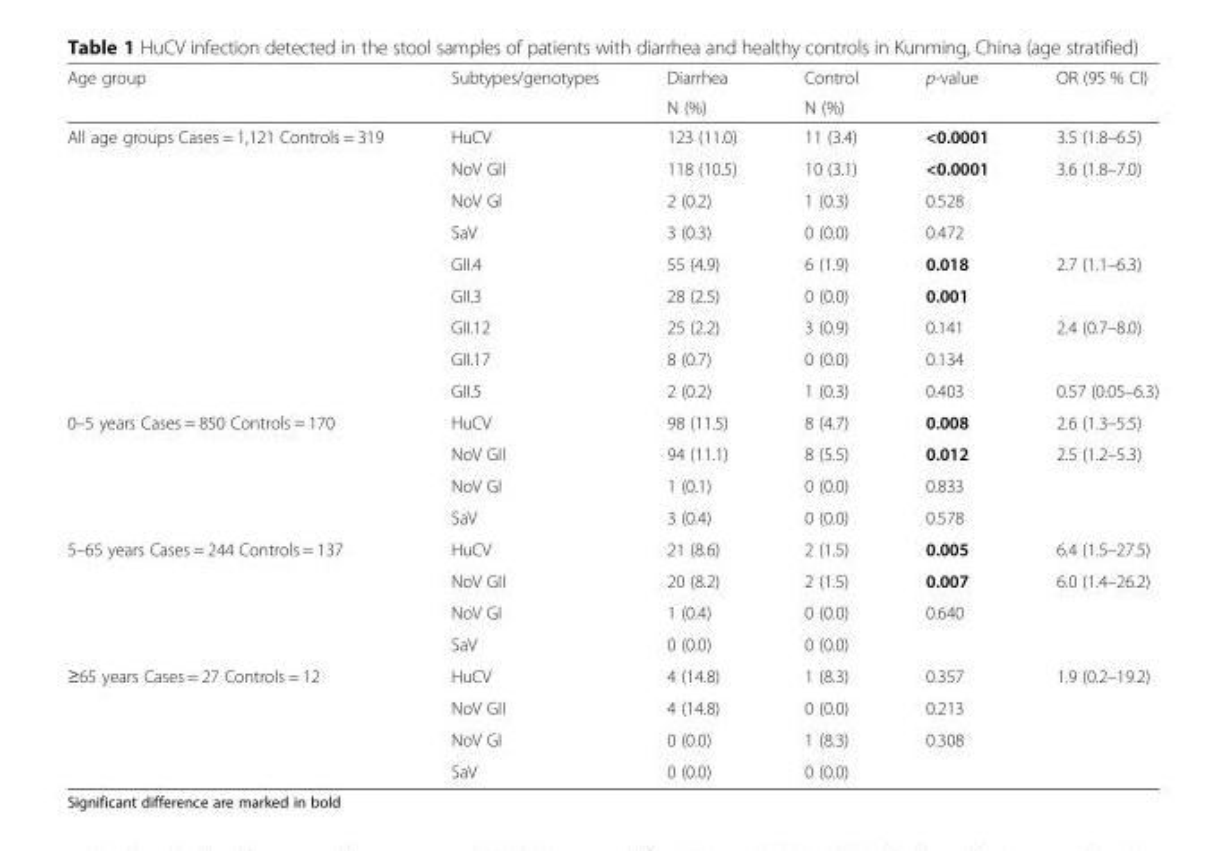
<table><thead><tr><td rowspan="2">Age group</td><td rowspan="2">Subtypes/genotypes</td><td rowspan="2">Diarrhea N (%)</td><td rowspan="2">Control N (%)</td><td rowspan="2">p-value</td><td rowspan="2">OR (95 % CI)</td></tr><tr></tr></thead><tbody><tr><td rowspan="9">All age groups Cases = 1,121 Controls = 319</td><td>HuCV</td><td>123 (11.0)</td><td>11 (3.4)</td><td>&lt;0.0001</td><td>3.5 (1.8–6.5)</td></tr><tr><td>NoV GII</td><td>118 (10.5)</td><td>10 (3.1)</td><td>&lt;0.0001</td><td>3.6 (1.8–7.0)</td></tr><tr><td>NoV GI</td><td>2 (0.2)</td><td>1 (0.3)</td><td>0.528</td><td></td></tr><tr><td>SaV</td><td>3 (0.3)</td><td>0 (0.0)</td><td>0.472</td><td></td></tr><tr><td>GII.4</td><td>55 (4.9)</td><td>6 (1.9)</td><td>0.018</td><td>2.7 (1.1–6.3)</td></tr><tr><td>GII.3</td><td>28 (2.5)</td><td>0 (0.0)</td><td>0.001</td><td></td></tr><tr><td>GII.12</td><td>25 (2.2)</td><td>3 (0.9)</td><td>0.141</td><td>2.4 (0.7–8.0)</td></tr><tr><td>GII.17</td><td>8 (0.7)</td><td>0 (0.0)</td><td>0.134</td><td></td></tr><tr><td>GII.5</td><td>2 (0.2)</td><td>1 (0.3)</td><td>0.403</td><td>0.57 (0.05–6.3)</td></tr><tr><td rowspan="4">0–5 years Cases = 850 Controls = 170</td><td>HuCV</td><td>98 (11.5)</td><td>8 (4.7)</td><td>0.008</td><td>2.6 (1.3–5.5)</td></tr><tr><td>NoV GII</td><td>94 (11.1)</td><td>8 (5.5)</td><td>0.012</td><td>2.5 (1.2–5.3)</td></tr><tr><td>NoV GI</td><td>1 (0.1)</td><td>0 (0.0)</td><td>0.833</td><td></td></tr><tr><td>SaV</td><td>3 (0.4)</td><td>0 (0.0)</td><td>0.578</td><td></td></tr><tr><td rowspan="4">5–65 years Cases = 244 Controls = 137</td><td>HuCV</td><td>21 (8.6)</td><td>2 (1.5)</td><td>0.005</td><td>6.4 (1.5–27.5)</td></tr><tr><td>NoV GII</td><td>20 (8.2)</td><td>2 (1.5)</td><td>0.007</td><td>6.0 (1.4–26.2)</td></tr><tr><td>NoV GI</td><td>1 (0.4)</td><td>0 (0.0)</td><td>0.640</td><td></td></tr><tr><td>SaV</td><td>0 (0.0)</td><td>0 (0.0)</td><td></td><td></td></tr><tr><td rowspan="4">≥65 years Cases = 27 Controls = 12</td><td>HuCV</td><td>4 (14.8)</td><td>1 (8.3)</td><td>0.357</td><td>1.9 (0.2–19.2)</td></tr><tr><td>NoV GII</td><td>4 (14.8)</td><td>0 (0.0)</td><td>0.213</td><td></td></tr><tr><td>NoV GI</td><td>0 (0.0)</td><td>1 (8.3)</td><td>0.308</td><td></td></tr><tr><td>SaV</td><td>0 (0.0)</td><td>0 (0.0)</td><td></td><td></td></tr></tbody></table>